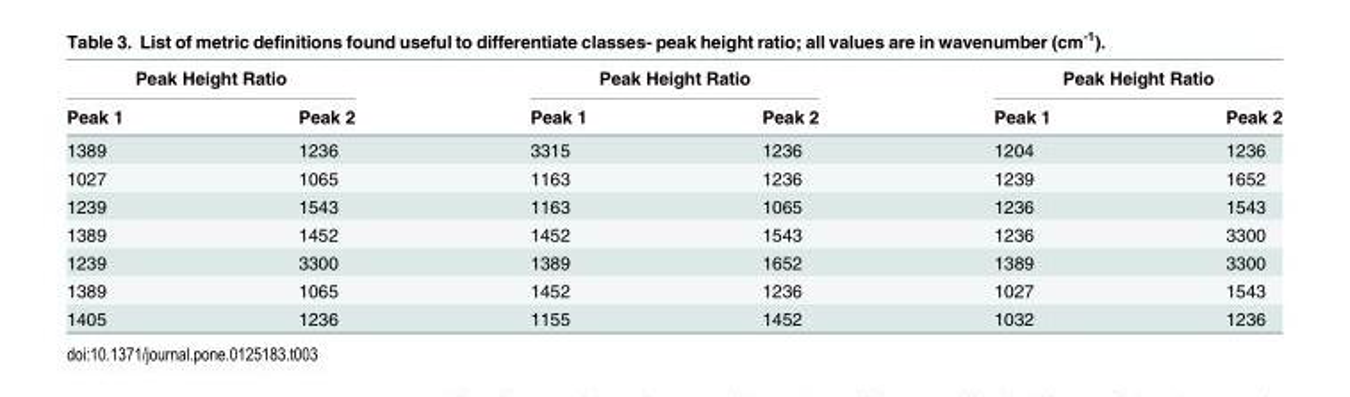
<table><thead><tr><td colspan="2">Peak Height Ratio</td><td colspan="2">Peak Height Ratio</td><td colspan="2">Peak Height Ratio</td></tr><tr><td>Peak 1</td><td>Peak 2</td><td>Peak 1</td><td>Peak 2</td><td>Peak 1</td><td>Peak 2</td></tr></thead><tbody><tr><td>1389</td><td>1236</td><td>3315</td><td>1236</td><td>1204</td><td>1236</td></tr><tr><td>1027</td><td>1065</td><td>1163</td><td>1236</td><td>1239</td><td>1652</td></tr><tr><td>1239</td><td>1543</td><td>1163</td><td>1065</td><td>1236</td><td>1543</td></tr><tr><td>1389</td><td>1452</td><td>1452</td><td>1543</td><td>1236</td><td>3300</td></tr><tr><td>1239</td><td>3300</td><td>1389</td><td>1652</td><td>1389</td><td>3300</td></tr><tr><td>1389</td><td>1065</td><td>1452</td><td>1236</td><td>1027</td><td>1543</td></tr><tr><td>1405</td><td>1236</td><td>1155</td><td>1452</td><td>1032</td><td>1236</td></tr></tbody></table>